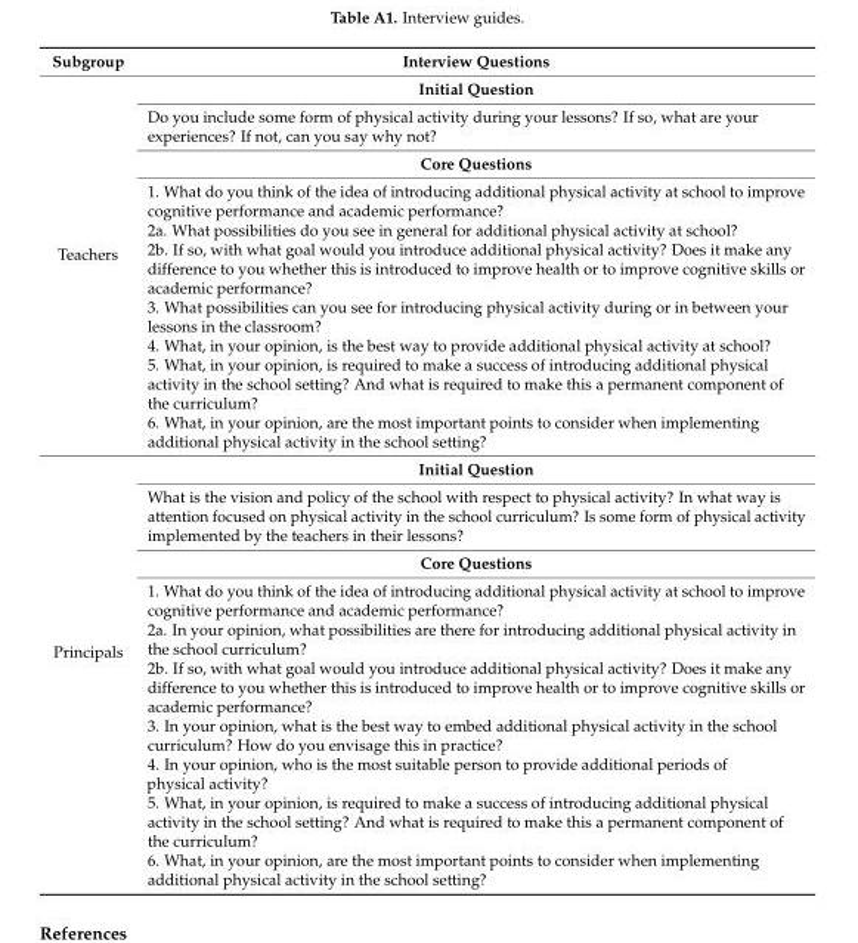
<table><thead><tr><td>Subgroup</td><td>Interview Questions</td></tr></thead><tbody><tr><td rowspan="4">Teachers</td><td>Initial Question</td></tr><tr><td>Do you include some form of physical activity during your lessons? If so, what are your experiences? If not, can you say why not?</td></tr><tr><td>Core Questions</td></tr><tr><td>1. What do you think of the idea of introducing additional physical activity at school to improve cognitive performance and academic performance? 2a. What possibilities do you see in general for additional physical activity at school? 2b. If so, with what goal would you introduce additional physical activity? Does it make any difference to you whether this is introduced to improve health or to improve cognitive skills or academic performance? 3. What possibilities can you see for introducing physical activity during or in between your lessons in the classroom? 4. What, in your opinion, is the best way to provide additional physical activity at school? 5. What, in your opinion, is required to make a success of introducing additional physical activity in the school setting? And what is required to make this a permanent component of the curriculum? 6. What, in your opinion, are the most important points to consider when implementing additional physical activity in the school setting?</td></tr><tr><td rowspan="4">Principals</td><td>Initial Question</td></tr><tr><td>What is the vision and policy of the school with respect to physical activity? In what way is attention focused on physical activity in the school curriculum? Is some form of physical activity implemented by the teachers in their lessons?</td></tr><tr><td>Core Questions</td></tr><tr><td>1. What do you think of the idea of introducing additional physical activity at school to improve cognitive performance and academic performance? 2a. In your opinion, what possibilities are there for introducing additional physical activity in the school curriculum? 2b. If so, with what goal would you introduce additional physical activity? Does it make any difference to you whether this is introduced to improve health or to improve cognitive skills or academic performance? 3. In your opinion, what is the best way to embed additional physical activity in the school curriculum? How do you envisage this in practice? 4. In your opinion, who is the most suitable person to provide additional periods of physical activity? 5. What, in your opinion, is required to make a success of introducing additional physical activity in the school setting? And what is required to make this a permanent component of the curriculum? 6. What, in your opinion, are the most important points to consider when implementing additional physical activity in the school setting?</td></tr></tbody></table>